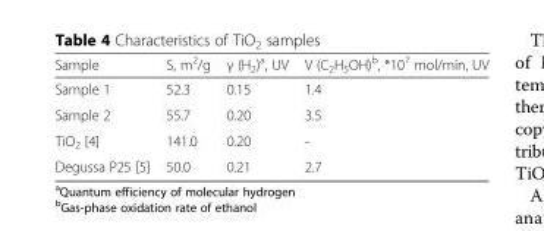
<table><thead><tr><td>Sample</td><td>S, m<sup>2</sup>/g</td><td>γ (Н<sub>2</sub>)<sup>a</sup>, UV</td><td>V (С<sub>2</sub>Н<sub>5</sub>ОН)<sup>b</sup>, *10<sup>7</sup> mol/min, UV</td></tr></thead><tbody><tr><td>Sample 1</td><td>52.3</td><td>0.15</td><td>1.4</td></tr><tr><td>Sample 2</td><td>55.7</td><td>0.20</td><td>3.5</td></tr><tr><td>ТіО<sub>2</sub> [4]</td><td>141.0</td><td>0.20</td><td>-</td></tr><tr><td>Degussa P25 [5]</td><td>50.0</td><td>0.21</td><td>2.7</td></tr></tbody></table>